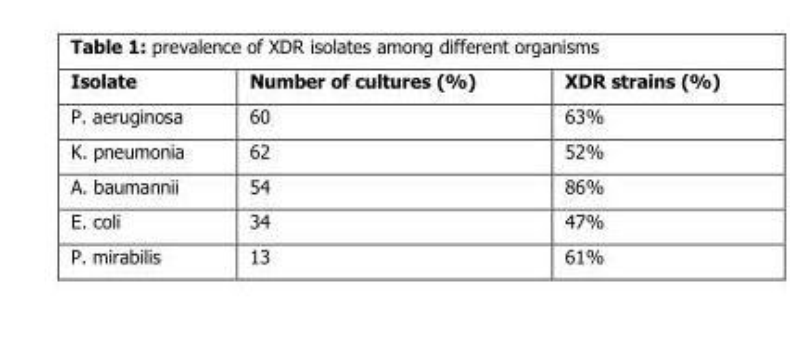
<table><thead><tr><td>Isolate</td><td>Number of cultures (%)</td><td>XDR strains (%)</td></tr></thead><tbody><tr><td>P. aeruginosa</td><td>60</td><td>63%</td></tr><tr><td>K. pneumonia</td><td>62</td><td>52%</td></tr><tr><td>A. baumannii</td><td>54</td><td>86%</td></tr><tr><td>E. coli</td><td>34</td><td>47%</td></tr><tr><td>P. mirabilis</td><td>13</td><td>61%</td></tr></tbody></table>